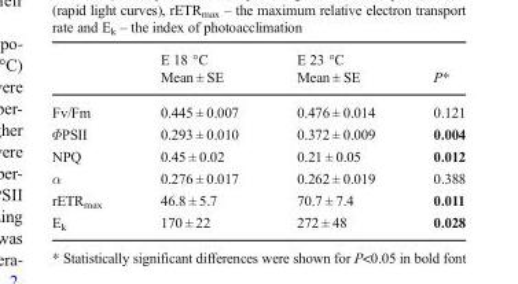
<table><thead><tr><td rowspan="2"></td><td rowspan="2">E 18 °C Mean ± SE</td><td rowspan="2">E 23 °C Mean ± SE</td><td rowspan="2">P*</td></tr><tr></tr></thead><tbody><tr><td>Fv/Fm</td><td>0.445 ± 0.007</td><td>0.476 ± 0.014</td><td>0.121</td></tr><tr><td>ΦPSII</td><td>0.293 ± 0.010</td><td>0.372 ± 0.009</td><td>0.004</td></tr><tr><td>NPQ</td><td>0.45 ± 0.02</td><td>0.21 ± 0.05</td><td>0.012</td></tr><tr><td>α</td><td>0.276 ± 0.017</td><td>0.262 ± 0.019</td><td>0.388</td></tr><tr><td>rETR<sub>max</sub></td><td>46.8 ± 5.7</td><td>70.7 ± 7.4</td><td>0.011</td></tr><tr><td>E<sub>k</sub></td><td>170 ± 22</td><td>272 ± 48</td><td>0.028</td></tr></tbody></table>